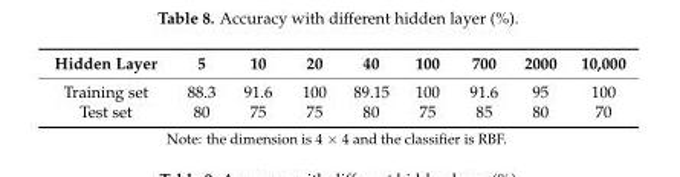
<table><thead><tr><td>Hidden Layer</td><td>5</td><td>10</td><td>20</td><td>40</td><td>100</td><td>700</td><td>2000</td><td>10,000</td></tr></thead><tbody><tr><td>Training set</td><td>88.3</td><td>91.6</td><td>100</td><td>89.15</td><td>100</td><td>91.6</td><td>95</td><td>100</td></tr><tr><td>Test set</td><td>80</td><td>75</td><td>75</td><td>80</td><td>75</td><td>85</td><td>80</td><td>70</td></tr></tbody></table>